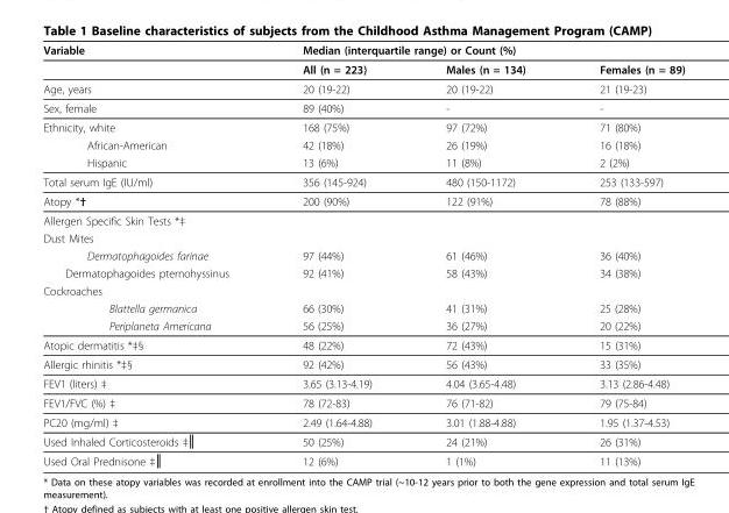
<table><thead><tr><td rowspan="2">Variable</td><td colspan="3">Median (interquartile range) or Count (%)</td></tr><tr><td>All (n = 223)</td><td>Males (n = 134)</td><td>Females (n = 89)</td></tr></thead><tbody><tr><td>Age, years</td><td>20 (19-22)</td><td>20 (19-22)</td><td>21 (19-23)</td></tr><tr><td>Sex, female</td><td>89 (40%)</td><td>-</td><td>-</td></tr><tr><td>Ethnicity, white</td><td>168 (75%)</td><td>97 (72%)</td><td>71 (80%)</td></tr><tr><td>African-American</td><td>42 (18%)</td><td>26 (19%)</td><td>16 (18%)</td></tr><tr><td>Hispanic</td><td>13 (6%)</td><td>11 (8%)</td><td>2 (2%)</td></tr><tr><td>Total serum IgE (IU/ml)</td><td>356 (145-924)</td><td>480 (150-1172)</td><td>253 (133-597)</td></tr><tr><td>Atopy *†</td><td>200 (90%)</td><td>122 (91%)</td><td>78 (88%)</td></tr><tr><td colspan="4">Allergen Specific Skin Tests *‡</td></tr><tr><td colspan="4">Dust Mites</td></tr><tr><td>Dermatophagoides farinae</td><td>97 (44%)</td><td>61 (46%)</td><td>36 (40%)</td></tr><tr><td>Dermatophagoides pternohyssinus</td><td>92 (41%)</td><td>58 (43%)</td><td>34 (38%)</td></tr><tr><td colspan="4">Cockroaches</td></tr><tr><td>Blattella germanica</td><td>66 (30%)</td><td>41 (31%)</td><td>25 (28%)</td></tr><tr><td>Periplaneta Americana</td><td>56 (25%)</td><td>36 (27%)</td><td>20 (22%)</td></tr><tr><td>Atopic dermatitis *‡§</td><td>48 (22%)</td><td>72 (43%)</td><td>15 (31%)</td></tr><tr><td>Allergic rhinitis *‡§</td><td>92 (42%)</td><td>56 (43%)</td><td>33 (35%)</td></tr><tr><td>FEV1 (liters) ‡</td><td>3.65 (3.13-4.19)</td><td>4.04 (3.65-4.48)</td><td>3.13 (2.86-4.48)</td></tr><tr><td>FEV1/FVC (%) ‡</td><td>78 (72-83)</td><td>76 (71-82)</td><td>79 (75-84)</td></tr><tr><td>PC20 (mg/ml) ‡</td><td>2.49 (1.64-4.88)</td><td>3.01 (1.88-4.88)</td><td>1.95 (1.37-4.53)</td></tr><tr><td>Used Inhaled Corticosteroids ‡║</td><td>50 (25%)</td><td>24 (21%)</td><td>26 (31%)</td></tr><tr><td>Used Oral Prednisone ‡║</td><td>12 (6%)</td><td>1 (1%)</td><td>11 (13%)</td></tr></tbody></table>